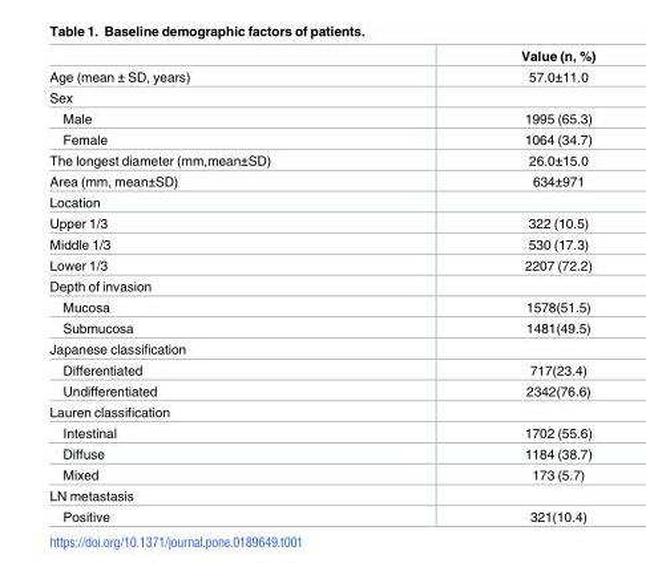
<table><thead><tr><td></td><td>Value (n, %)</td></tr></thead><tbody><tr><td>Age (mean ± SD, years)</td><td>57.0±11.0</td></tr><tr><td colspan="2">Sex</td></tr><tr><td>Male</td><td>1995 (65.3)</td></tr><tr><td>Female</td><td>1064 (34.7)</td></tr><tr><td>The longest diameter (mm,mean±SD)</td><td>26.0±15.0</td></tr><tr><td>Area (mm, mean±SD)</td><td>634±971</td></tr><tr><td colspan="2">Location</td></tr><tr><td>Upper 1/3</td><td>322 (10.5)</td></tr><tr><td>Middle 1/3</td><td>530 (17.3)</td></tr><tr><td>Lower 1/3</td><td>2207 (72.2)</td></tr><tr><td colspan="2">Depth of invasion</td></tr><tr><td>Mucosa</td><td>1578(51.5)</td></tr><tr><td>Submucosa</td><td>1481(49.5)</td></tr><tr><td colspan="2">Japanese classification</td></tr><tr><td>Differentiated</td><td>717(23.4)</td></tr><tr><td>Undifferentiated</td><td>2342(76.6)</td></tr><tr><td colspan="2">Lauren classification</td></tr><tr><td>Intestinal</td><td>1702 (55.6)</td></tr><tr><td>Diffuse</td><td>1184 (38.7)</td></tr><tr><td>Mixed</td><td>173 (5.7)</td></tr><tr><td colspan="2">LN metastasis</td></tr><tr><td>Positive</td><td>321(10.4)</td></tr></tbody></table>